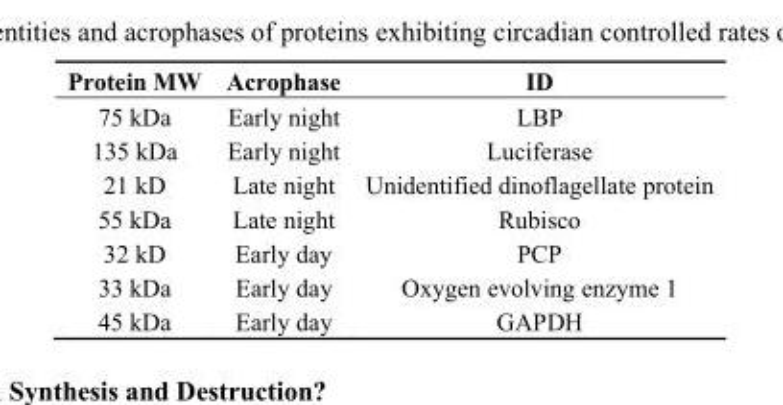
<table><thead><tr><td>Protein MW</td><td>Acrophase</td><td>ID</td></tr></thead><tbody><tr><td>75 kDa</td><td>Early night</td><td>LBP</td></tr><tr><td>135 kDa</td><td>Early night</td><td>Luciferase</td></tr><tr><td>21 kD</td><td>Late night</td><td>Unidentified dinoflagellate protein</td></tr><tr><td>55 kDa</td><td>Late night</td><td>Rubisco</td></tr><tr><td>32 kD</td><td>Early day</td><td>PCP</td></tr><tr><td>33 kDa</td><td>Early day</td><td>Oxygen evolving enzyme 1</td></tr><tr><td>45 kDa</td><td>Early day</td><td>GAPDH</td></tr></tbody></table>